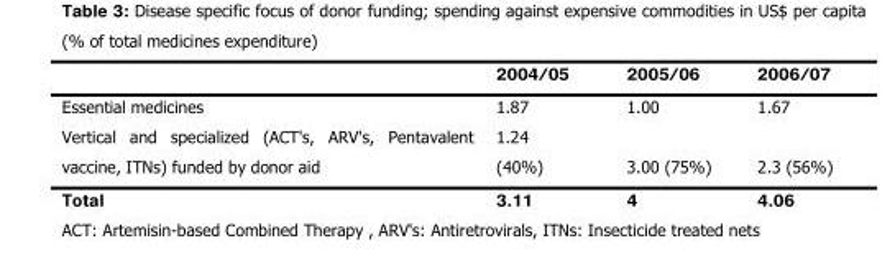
<table><thead><tr><td></td><td>2004/05</td><td>2005/06</td><td>2006/07</td></tr></thead><tbody><tr><td>Essential medicines</td><td>1.87</td><td>1.00</td><td>1.67</td></tr><tr><td>Vertical and specialized (ACT&#x27;s, ARV&#x27;s, Pentavalent vaccine, ITNs) funded by donor aid</td><td>1.24 (40%)</td><td>3.00 (75%)</td><td>2.3 (56%)</td></tr><tr><td>Total</td><td>3.11</td><td>4</td><td>4.06</td></tr></tbody></table>